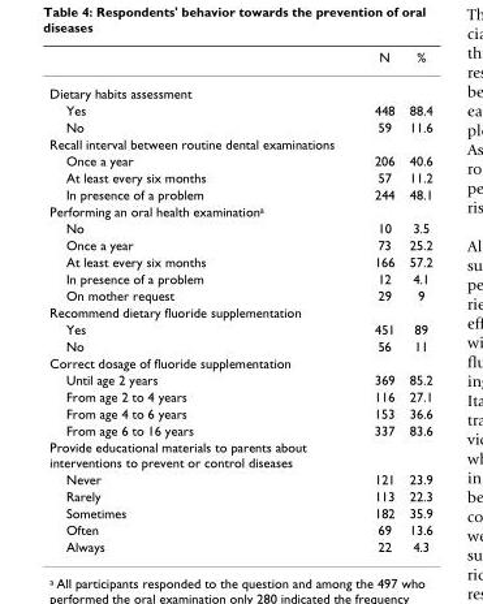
<table><thead><tr><td></td><td>N</td><td>%</td></tr></thead><tbody><tr><td colspan="3">Dietary habits assessment</td></tr><tr><td>Yes</td><td>448</td><td>88.4</td></tr><tr><td>No</td><td>59</td><td>11.6</td></tr><tr><td colspan="3">Recall interval between routine dental examinations</td></tr><tr><td>Once a year</td><td>206</td><td>40.6</td></tr><tr><td>At least every six months</td><td>57</td><td>11.2</td></tr><tr><td>In presence of a problem</td><td>244</td><td>48.1</td></tr><tr><td colspan="3">Performing an oral health examinationa</td></tr><tr><td>No</td><td>10</td><td>3.5</td></tr><tr><td>Once a year</td><td>73</td><td>25.2</td></tr><tr><td>At least every six months</td><td>166</td><td>57.2</td></tr><tr><td>In presence of a problem</td><td>12</td><td>4.1</td></tr><tr><td>On mother request</td><td>29</td><td>9</td></tr><tr><td colspan="3">Recommend dietary fluoride supplementation</td></tr><tr><td>Yes</td><td>451</td><td>89</td></tr><tr><td>No</td><td>56</td><td>11</td></tr><tr><td colspan="3">Correct dosage of fluoride supplementation</td></tr><tr><td>Until age 2 years</td><td>369</td><td>85.2</td></tr><tr><td>From age 2 to 4 years</td><td>116</td><td>27.1</td></tr><tr><td>From age 4 to 6 years</td><td>153</td><td>36.6</td></tr><tr><td>From age 6 to 16 years</td><td>337</td><td>83.6</td></tr><tr><td colspan="3">Provide educational materials to parents about interventions to prevent or control diseases</td></tr><tr><td>Never</td><td>121</td><td>23.9</td></tr><tr><td>Rarely</td><td>113</td><td>22.3</td></tr><tr><td>Sometimes</td><td>182</td><td>35.9</td></tr><tr><td>Often</td><td>69</td><td>13.6</td></tr><tr><td>Always</td><td>22</td><td>4.3</td></tr></tbody></table>